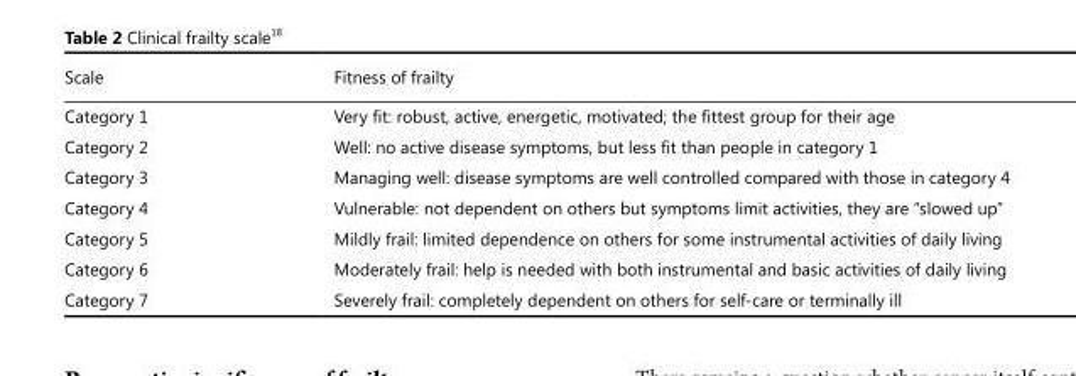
<table><thead><tr><td>Scale</td><td>Fitness of frailty</td></tr></thead><tbody><tr><td>Category 1</td><td>Very fit: robust, active, energetic, motivated; the fittest group for their age</td></tr><tr><td>Category 2</td><td>Well: no active disease symptoms, but less fit than people in category 1</td></tr><tr><td>Category 3</td><td>Managing well: disease symptoms are well controlled compared with those in category 4</td></tr><tr><td>Category 4</td><td>Vulnerable: not dependent on others but symptoms limit activities, they are “slowed up”</td></tr><tr><td>Category 5</td><td>Mildly frail: limited dependence on others for some instrumental activities of daily living</td></tr><tr><td>Category 6</td><td>Moderately frail: help is needed with both instrumental and basic activities of daily living</td></tr><tr><td>Category 7</td><td>Severely frail: completely dependent on others for self-care or terminally ill</td></tr></tbody></table>